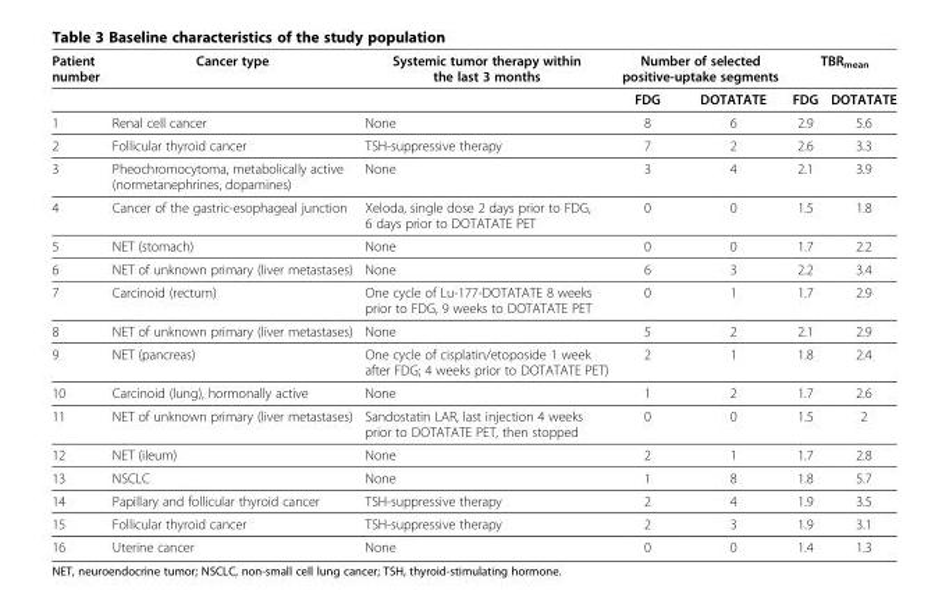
<table><thead><tr><td rowspan="2">Patient number</td><td rowspan="2">Cancer type</td><td rowspan="2">Systemic tumor therapy within the last 3 months</td><td colspan="2">Number of selected positive-uptake segments</td><td colspan="2">TBR<sub>mean</sub></td></tr><tr><td>FDG</td><td>DOTATATE</td><td>FDG</td><td>DOTATATE</td></tr></thead><tbody><tr><td>1</td><td>Renal cell cancer</td><td>None</td><td>8</td><td>6</td><td>2.9</td><td>5.6</td></tr><tr><td>2</td><td>Follicular thyroid cancer</td><td>TSH-suppressive therapy</td><td>7</td><td>2</td><td>2.6</td><td>3.3</td></tr><tr><td>3</td><td>Pheochromocytoma, metabolically active (normetanephrines, dopamines)</td><td>None</td><td>3</td><td>4</td><td>2.1</td><td>3.9</td></tr><tr><td>4</td><td>Cancer of the gastric-esophageal junction</td><td>Xeloda, single dose 2 days prior to FDG, 6 days prior to DOTATATE PET</td><td>0</td><td>0</td><td>1.5</td><td>1.8</td></tr><tr><td>5</td><td>NET (stomach)</td><td>None</td><td>0</td><td>0</td><td>1.7</td><td>2.2</td></tr><tr><td>6</td><td>NET of unknown primary (liver metastases)</td><td>None</td><td>6</td><td>3</td><td>2.2</td><td>3.4</td></tr><tr><td>7</td><td>Carcinoid (rectum)</td><td>One cycle of Lu-177-DOTATATE 8 weeks prior to FDG, 9 weeks to DOTATATE PET</td><td>0</td><td>1</td><td>1.7</td><td>2.9</td></tr><tr><td>8</td><td>NET of unknown primary (liver metastases)</td><td>None</td><td>5</td><td>2</td><td>2.1</td><td>2.9</td></tr><tr><td>9</td><td>NET (pancreas)</td><td>One cycle of cisplatin/etoposide 1 week after FDG; 4 weeks prior to DOTATATE PET)</td><td>2</td><td>1</td><td>1.8</td><td>2.4</td></tr><tr><td>10</td><td>Carcinoid (lung), hormonally active</td><td>None</td><td>1</td><td>2</td><td>1.7</td><td>2.6</td></tr><tr><td>11</td><td>NET of unknown primary (liver metastases)</td><td>Sandostatin LAR, last injection 4 weeks prior to DOTATATE PET, then stopped</td><td>0</td><td>0</td><td>1.5</td><td>2</td></tr><tr><td>12</td><td>NET (ileum)</td><td>None</td><td>2</td><td>1</td><td>1.7</td><td>2.8</td></tr><tr><td>13</td><td>NSCLC</td><td>None</td><td>1</td><td>8</td><td>1.8</td><td>5.7</td></tr><tr><td>14</td><td>Papillary and follicular thyroid cancer</td><td>TSH-suppressive therapy</td><td>2</td><td>4</td><td>1.9</td><td>3.5</td></tr><tr><td>15</td><td>Follicular thyroid cancer</td><td>TSH-suppressive therapy</td><td>2</td><td>3</td><td>1.9</td><td>3.1</td></tr><tr><td>16</td><td>Uterine cancer</td><td>None</td><td>0</td><td>0</td><td>1.4</td><td>1.3</td></tr></tbody></table>